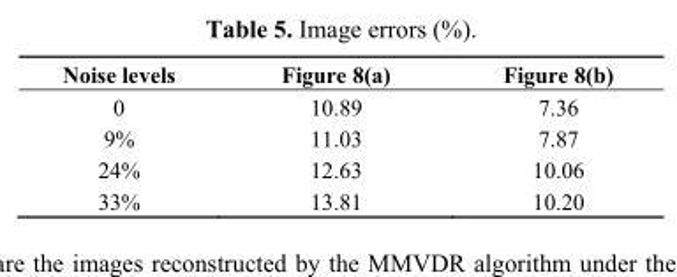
<table><thead><tr><td>Noise levels</td><td>Figure 8(a)</td><td>Figure 8(b)</td></tr></thead><tbody><tr><td>0</td><td>10.89</td><td>7.36</td></tr><tr><td>9%</td><td>11.03</td><td>7.87</td></tr><tr><td>24%</td><td>12.63</td><td>10.06</td></tr><tr><td>33%</td><td>13.81</td><td>10.20</td></tr></tbody></table>